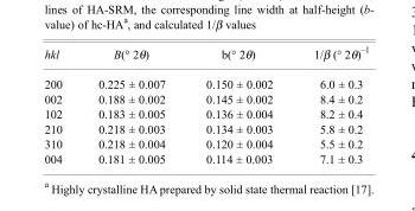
<table><thead><tr><td>hkl</td><td>B(° 2θ)</td><td>b(° 2θ)</td><td>1/β (° 2θ)<sup>–1</sup></td></tr></thead><tbody><tr><td>200</td><td>0.225 ± 0.007</td><td>0.150 ± 0.002</td><td>6.0 ± 0.3</td></tr><tr><td>002</td><td>0.188 ± 0.002</td><td>0.145 ± 0.002</td><td>8.4 ± 0.2</td></tr><tr><td>102</td><td>0.183 ± 0.005</td><td>0.136 ± 0.004</td><td>8.2 ± 0.4</td></tr><tr><td>210</td><td>0.218 ± 0.003</td><td>0.134 ± 0.003</td><td>5.8 ± 0.2</td></tr><tr><td>310</td><td>0.218 ± 0.004</td><td>0.120 ± 0.004</td><td>5.5 ± 0.2</td></tr><tr><td>004</td><td>0.181 ± 0.005</td><td>0.114 ± 0.003</td><td>7.1 ± 0.3</td></tr></tbody></table>